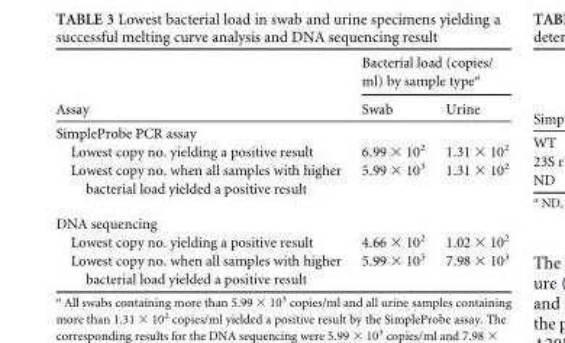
<table><thead><tr><td rowspan="2">Assay</td><td colspan="2">Bacterial load (copies/ ml) by sample type<sup>a</sup></td></tr><tr><td>Swab</td><td>Urine</td></tr></thead><tbody><tr><td colspan="3">SimpleProbe PCR assay</td></tr><tr><td>Lowest copy no. yielding a positive result</td><td>6.99 × 10<sup>2</sup></td><td>1.31 × 10<sup>2</sup></td></tr><tr><td>Lowest copy no. when all samples with higher bacterial load yielded a positive result</td><td>5.99 × 10<sup>3</sup></td><td>1.31 × 10<sup>2</sup></td></tr><tr><td colspan="3">DNA sequencing</td></tr><tr><td>Lowest copy no. yielding a positive result</td><td>4.66 × 10<sup>2</sup></td><td>1.02 × 10<sup>2</sup></td></tr><tr><td>Lowest copy no. when all samples with higher bacterial load yielded a positive result</td><td>5.99 × 10<sup>3</sup></td><td>7.98 × 10<sup>3</sup></td></tr></tbody></table>